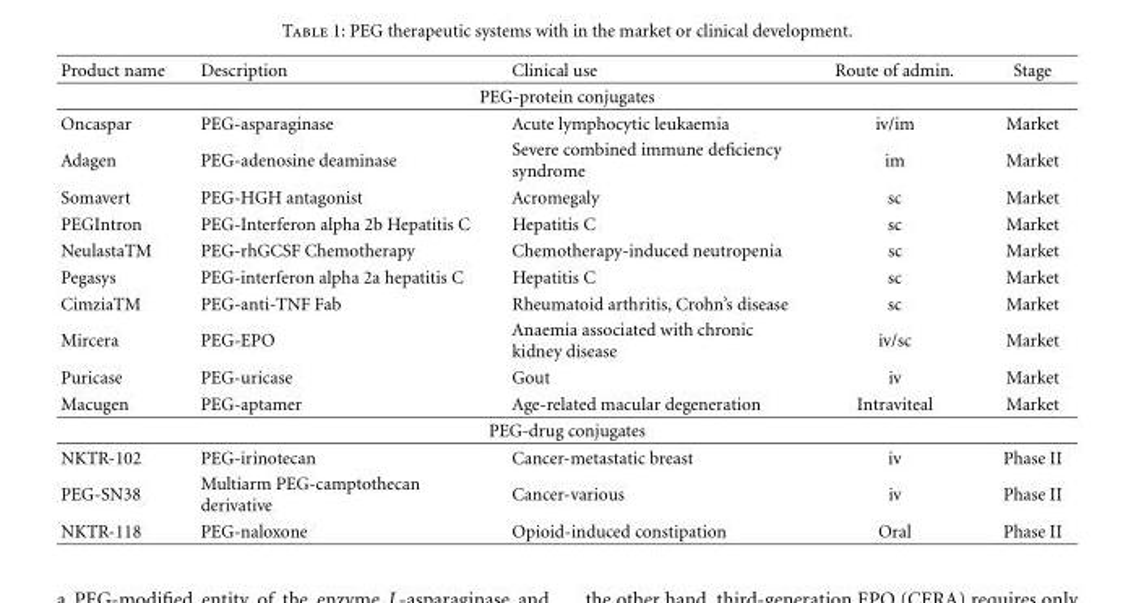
<table><thead><tr><td>Product name</td><td>Description</td><td>Clinical use</td><td>Route of admin.</td><td>Stage</td></tr></thead><tbody><tr><td colspan="5">PEG-protein conjugates</td></tr><tr><td>Oncaspar</td><td>PEG-asparaginase</td><td>Acute lymphocytic leukaemia</td><td>iv/im</td><td>Market</td></tr><tr><td>Adagen</td><td>PEG-adenosine deaminase</td><td>Severe combined immune deficiency syndrome</td><td>im</td><td>Market</td></tr><tr><td>Somavert</td><td>PEG-HGH antagonist</td><td>Acromegaly</td><td>sc</td><td>Market</td></tr><tr><td>PEGIntron</td><td>PEG-Interferon alpha 2b Hepatitis C</td><td>Hepatitis C</td><td>sc</td><td>Market</td></tr><tr><td>NeulastaTM</td><td>PEG-rhGCSF Chemotherapy</td><td>Chemotherapy-induced neutropenia</td><td>sc</td><td>Market</td></tr><tr><td>Pegasys</td><td>PEG-interferon alpha 2a hepatitis C</td><td>Hepatitis C</td><td>sc</td><td>Market</td></tr><tr><td>CimziaTM</td><td>PEG-anti-TNF Fab</td><td>Rheumatoid arthritis, Crohn’s disease</td><td>sc</td><td>Market</td></tr><tr><td>Mircera</td><td>PEG-EPO</td><td>Anaemia associated with chronic kidney disease</td><td>iv/sc</td><td>Market</td></tr><tr><td>Puricase</td><td>PEG-uricase</td><td>Gout</td><td>iv</td><td>Market</td></tr><tr><td>Macugen</td><td>PEG-aptamer</td><td>Age-related macular degeneration</td><td>Intraviteal</td><td>Market</td></tr><tr><td colspan="5">PEG-drug conjugates</td></tr><tr><td>NKTR-102</td><td>PEG-irinotecan</td><td>Cancer-metastatic breast</td><td>iv</td><td>Phase II</td></tr><tr><td>PEG-SN38</td><td>Multiarm PEG-camptothecan derivative</td><td>Cancer-various</td><td>iv</td><td>Phase II</td></tr><tr><td>NKTR-118</td><td>PEG-naloxone</td><td>Opioid-induced constipation</td><td>Oral</td><td>Phase II</td></tr></tbody></table>